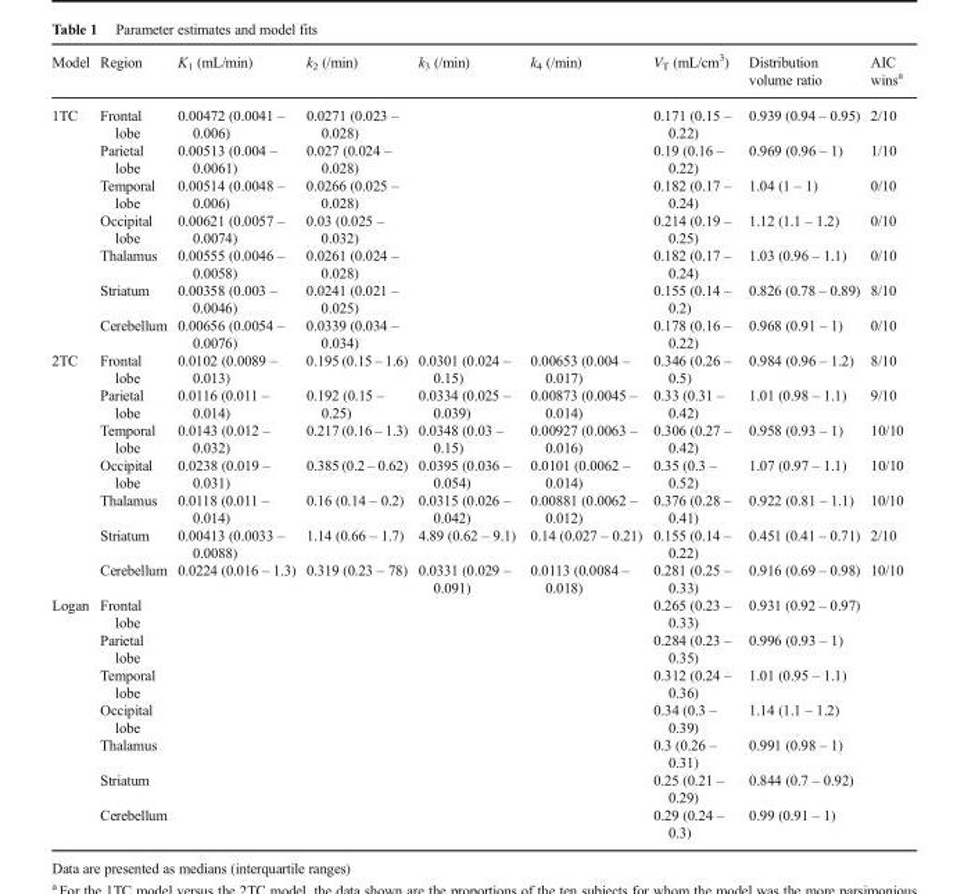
<table><thead><tr><td>Model</td><td>Region</td><td>K<sub>1</sub> (mL/min)</td><td>k<sub>2</sub> (/min)</td><td>k<sub>3</sub> (/min)</td><td>k<sub>4</sub> (/min)</td><td>V<sub>T</sub> (mL/cm<sup>3</sup>)</td><td>Distribution volume ratio</td><td>AIC wins<sup>a</sup></td></tr></thead><tbody><tr><td rowspan="7">1TC</td><td>Frontal lobe</td><td>0.00472 (0.0041 – 0.006)</td><td>0.0271 (0.023 – 0.028)</td><td></td><td></td><td>0.171 (0.15 – 0.22)</td><td>0.939 (0.94 – 0.95)</td><td>2/10</td></tr><tr><td>Parietal lobe</td><td>0.00513 (0.004 – 0.0061)</td><td>0.027 (0.024 – 0.028)</td><td></td><td></td><td>0.19 (0.16 – 0.22)</td><td>0.969 (0.96 – 1)</td><td>1/10</td></tr><tr><td>Temporal lobe</td><td>0.00514 (0.0048 – 0.006)</td><td>0.0266 (0.025 – 0.028)</td><td></td><td></td><td>0.182 (0.17 – 0.24)</td><td>1.04 (1 – 1)</td><td>0/10</td></tr><tr><td>Occipital lobe</td><td>0.00621 (0.0057 – 0.0074)</td><td>0.03 (0.025 – 0.032)</td><td></td><td></td><td>0.214 (0.19 – 0.25)</td><td>1.12 (1.1 – 1.2)</td><td>0/10</td></tr><tr><td>Thalamus</td><td>0.00555 (0.0046 – 0.0058)</td><td>0.0261 (0.024 – 0.028)</td><td></td><td></td><td>0.182 (0.17 – 0.24)</td><td>1.03 (0.96 – 1.1)</td><td>0/10</td></tr><tr><td>Striatum</td><td>0.00358 (0.003 – 0.0046)</td><td>0.0241 (0.021 – 0.025)</td><td></td><td></td><td>0.155 (0.14 – 0.2)</td><td>0.826 (0.78 – 0.89)</td><td>8/10</td></tr><tr><td>Cerebellum</td><td>0.00656 (0.0054 – 0.0076)</td><td>0.0339 (0.034 – 0.034)</td><td></td><td></td><td>0.178 (0.16 – 0.22)</td><td>0.968 (0.91 – 1)</td><td>0/10</td></tr><tr><td rowspan="7">2TC</td><td>Frontal lobe</td><td>0.0102 (0.0089 – 0.013)</td><td>0.195 (0.15 – 1.6)</td><td>0.0301 (0.024 – 0.15)</td><td>0.00653 (0.004 – 0.017)</td><td>0.346 (0.26 – 0.5)</td><td>0.984 (0.96 – 1.2)</td><td>8/10</td></tr><tr><td>Parietal lobe</td><td>0.0116 (0.011 – 0.014)</td><td>0.192 (0.15 – 0.25)</td><td>0.0334 (0.025 – 0.039)</td><td>0.00873 (0.0045 – 0.014)</td><td>0.33 (0.31 – 0.42)</td><td>1.01 (0.98 – 1.1)</td><td>9/10</td></tr><tr><td>Temporal lobe</td><td>0.0143 (0.012 – 0.032)</td><td>0.217 (0.16 – 1.3)</td><td>0.0348 (0.03 – 0.15)</td><td>0.00927 (0.0063 – 0.016)</td><td>0.306 (0.27 – 0.42)</td><td>0.958 (0.93 – 1)</td><td>10/10</td></tr><tr><td>Occipital lobe</td><td>0.0238 (0.019 – 0.031)</td><td>0.385 (0.2 – 0.62)</td><td>0.0395 (0.036 – 0.054)</td><td>0.0101 (0.0062 – 0.014)</td><td>0.35 (0.3 – 0.52)</td><td>1.07 (0.97 – 1.1)</td><td>10/10</td></tr><tr><td>Thalamus</td><td>0.0118 (0.011 – 0.014)</td><td>0.16 (0.14 – 0.2)</td><td>0.0315 (0.026 – 0.042)</td><td>0.00881 (0.0062 – 0.012)</td><td>0.376 (0.28 – 0.41)</td><td>0.922 (0.81 – 1.1)</td><td>10/10</td></tr><tr><td>Striatum</td><td>0.00413 (0.0033 – 0.0088)</td><td>1.14 (0.66 – 1.7)</td><td>4.89 (0.62 – 9.1)</td><td>0.14 (0.027 – 0.21)</td><td>0.155 (0.14 – 0.22)</td><td>0.451 (0.41 – 0.71)</td><td>2/10</td></tr><tr><td>Cerebellum</td><td>0.0224 (0.016 – 1.3)</td><td>0.319 (0.23 – 78)</td><td>0.0331 (0.029 – 0.091)</td><td>0.0113 (0.0084 – 0.018)</td><td>0.281 (0.25 – 0.33)</td><td>0.916 (0.69 – 0.98)</td><td>10/10</td></tr><tr><td rowspan="7">Logan</td><td>Frontal lobe</td><td></td><td></td><td></td><td></td><td>0.265 (0.23 – 0.33)</td><td>0.931 (0.92 – 0.97)</td><td></td></tr><tr><td>Parietal lobe</td><td></td><td></td><td></td><td></td><td>0.284 (0.23 – 0.35)</td><td>0.996 (0.93 – 1)</td><td></td></tr><tr><td>Temporal lobe</td><td></td><td></td><td></td><td></td><td>0.312 (0.24 – 0.36)</td><td>1.01 (0.95 – 1.1)</td><td></td></tr><tr><td>Occipital lobe</td><td></td><td></td><td></td><td></td><td>0.34 (0.3 – 0.39)</td><td>1.14 (1.1 – 1.2)</td><td></td></tr><tr><td>Thalamus</td><td></td><td></td><td></td><td></td><td>0.3 (0.26 – 0.31)</td><td>0.991 (0.98 – 1)</td><td></td></tr><tr><td>Striatum</td><td></td><td></td><td></td><td></td><td>0.25 (0.21 – 0.29)</td><td>0.844 (0.7 – 0.92)</td><td></td></tr><tr><td>Cerebellum</td><td></td><td></td><td></td><td></td><td>0.29 (0.24 – 0.3)</td><td>0.99 (0.91 – 1)</td><td></td></tr></tbody></table>